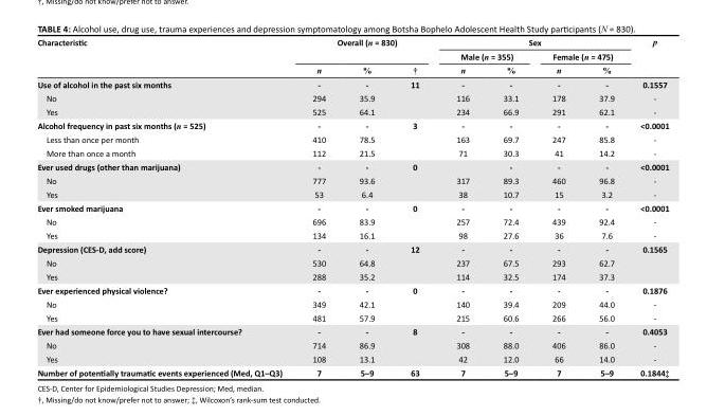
<table><thead><tr><td rowspan="3">Characteristic</td><td rowspan="2" colspan="3">Overall (n = 830)</td><td colspan="4">Sex</td><td rowspan="3">p</td></tr><tr><td colspan="2">Male (n = 355)</td><td colspan="2">Female (n = 475)</td></tr><tr><td>n</td><td>%</td><td>†</td><td>n</td><td>%</td><td>n</td><td>%</td></tr></thead><tbody><tr><td>Use of alcohol in the past six months</td><td>-</td><td>-</td><td>11</td><td>-</td><td>-</td><td>-</td><td>-</td><td>0.1557</td></tr><tr><td>No</td><td>294</td><td>35.9</td><td></td><td>116</td><td>33.1</td><td>178</td><td>37.9</td><td>-</td></tr><tr><td>Yes</td><td>525</td><td>64.1</td><td></td><td>234</td><td>66.9</td><td>291</td><td>62.1</td><td>-</td></tr><tr><td>Alcohol frequency in past six months (n = 525)</td><td>-</td><td>-</td><td>3</td><td>-</td><td>-</td><td>-</td><td>-</td><td>&lt;0.0001</td></tr><tr><td>Less than once per month</td><td>410</td><td>78.5</td><td></td><td>163</td><td>69.7</td><td>247</td><td>85.8</td><td>-</td></tr><tr><td>More than once a month</td><td>112</td><td>21.5</td><td></td><td>71</td><td>30.3</td><td>41</td><td>14.2</td><td>-</td></tr><tr><td>Ever used drugs (other than marijuana)</td><td>-</td><td>-</td><td>0</td><td></td><td>-</td><td>-</td><td>-</td><td>&lt;0.0001</td></tr><tr><td>No</td><td>777</td><td>93.6</td><td></td><td>317</td><td>89.3</td><td>460</td><td>96.8</td><td>-</td></tr><tr><td>Yes</td><td>53</td><td>6.4</td><td></td><td>38</td><td>10.7</td><td>15</td><td>3.2</td><td>-</td></tr><tr><td>Ever smoked marijuana</td><td>-</td><td>-</td><td>0</td><td>-</td><td>-</td><td>-</td><td>-</td><td>&lt;0.0001</td></tr><tr><td>No</td><td>696</td><td>83.9</td><td></td><td>257</td><td>72.4</td><td>439</td><td>92.4</td><td>-</td></tr><tr><td>Yes</td><td>134</td><td>16.1</td><td></td><td>98</td><td>27.6</td><td>36</td><td>7.6</td><td>-</td></tr><tr><td>Depression (CES-D, add score)</td><td>-</td><td>-</td><td>12</td><td>-</td><td>-</td><td>-</td><td>-</td><td>0.1565</td></tr><tr><td>No</td><td>530</td><td>64.8</td><td></td><td>237</td><td>67.5</td><td>293</td><td>62.7</td><td></td></tr><tr><td>Yes</td><td>288</td><td>35.2</td><td></td><td>114</td><td>32.5</td><td>174</td><td>37.3</td><td></td></tr><tr><td>Ever experienced physical violence?</td><td>-</td><td>-</td><td>0</td><td>-</td><td>-</td><td>-</td><td>-</td><td>0.1876</td></tr><tr><td>No</td><td>349</td><td>42.1</td><td></td><td>140</td><td>39.4</td><td>209</td><td>44.0</td><td>-</td></tr><tr><td>Yes</td><td>481</td><td>57.9</td><td></td><td>215</td><td>60.6</td><td>266</td><td>56.0</td><td>-</td></tr><tr><td>Ever had someone force you to have sexual intercourse?</td><td>-</td><td>-</td><td>8</td><td>-</td><td>-</td><td>-</td><td>-</td><td>0.4053</td></tr><tr><td>No</td><td>714</td><td>86.9</td><td></td><td>308</td><td>88.0</td><td>406</td><td>86.0</td><td>-</td></tr><tr><td>Yes</td><td>108</td><td>13.1</td><td></td><td>42</td><td>12.0</td><td>66</td><td>14.0</td><td>-</td></tr><tr><td>Number of potentially traumatic events experienced (Med, Q1–Q3)</td><td>7</td><td>5–9</td><td>63</td><td>7</td><td>5–9</td><td>7</td><td>5–9</td><td>0.1844‡</td></tr></tbody></table>